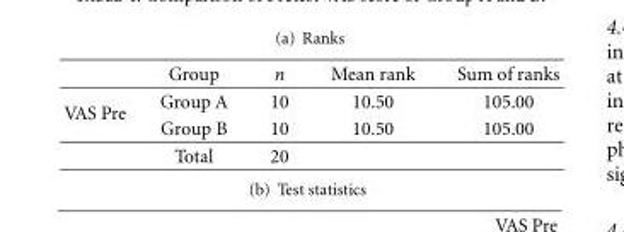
<table><thead><tr><td></td><td>Group</td><td>n</td><td>Mean rank</td><td>Sum of ranks</td></tr></thead><tbody><tr><td rowspan="3">VAS Pre</td><td>Group A</td><td>10</td><td>10.50</td><td>105.00</td></tr><tr><td>Group B</td><td>10</td><td>10.50</td><td>105.00</td></tr><tr><td>Total</td><td>20</td><td></td><td></td></tr></tbody></table>